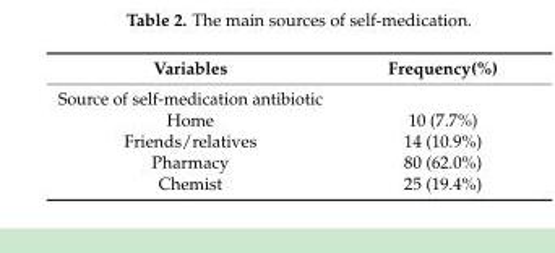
<table><thead><tr><td>Variables</td><td>Frequency(%)</td></tr></thead><tbody><tr><td colspan="2">Source of self-medication antibiotic</td></tr><tr><td>Home</td><td>10 (7.7%)</td></tr><tr><td>Friends/relatives</td><td>14 (10.9%)</td></tr><tr><td>Pharmacy</td><td>80 (62.0%)</td></tr><tr><td>Chemist</td><td>25 (19.4%)</td></tr></tbody></table>